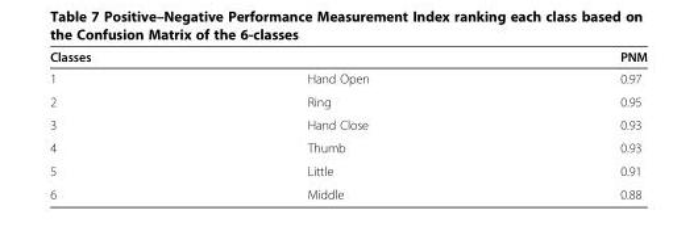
<table><thead><tr><td colspan="2">Classes</td><td rowspan="2">PNM 0.97</td></tr><tr><td>1</td><td>Hand Open</td></tr></thead><tbody><tr><td>2</td><td>Ring</td><td>0.95</td></tr><tr><td>3</td><td>Hand Close</td><td>0.93</td></tr><tr><td>4</td><td>Thumb</td><td>0.93</td></tr><tr><td>5</td><td>Little</td><td>0.91</td></tr><tr><td>6</td><td>Middle</td><td>0.88</td></tr></tbody></table>